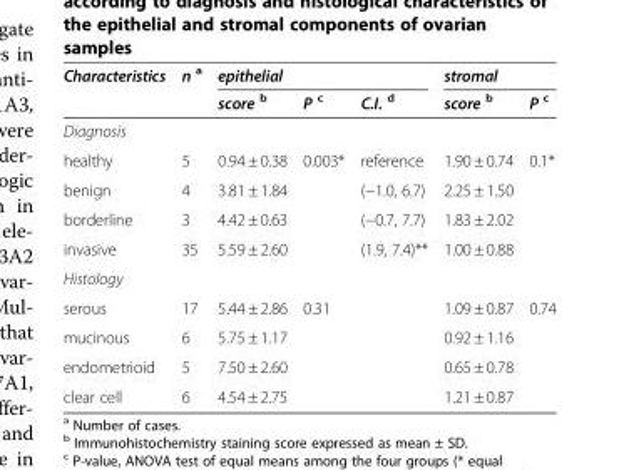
<table><thead><tr><td rowspan="2">Characteristics</td><td rowspan="2">n <sup>a</sup></td><td colspan="3">epithelial</td><td colspan="2">stromal</td></tr><tr><td>score <sup>b</sup></td><td>P <sup>c</sup></td><td>C.I. <sup>d</sup></td><td>score <sup>b</sup></td><td>P <sup>c</sup></td></tr></thead><tbody><tr><td colspan="7">Diagnosis</td></tr><tr><td>healthy</td><td>5</td><td>0.94 ± 0.38</td><td>0.003*</td><td>reference</td><td>1.90 ± 0.74</td><td>0.1*</td></tr><tr><td>benign</td><td>4</td><td>3.81 ± 1.84</td><td></td><td>(−1.0, 6.7)</td><td>2.25 ± 1.50</td><td></td></tr><tr><td>borderline</td><td>3</td><td>4.42 ± 0.63</td><td></td><td>(−0.7, 7.7)</td><td>1.83 ± 2.02</td><td></td></tr><tr><td>invasive</td><td>35</td><td>5.59 ± 2.60</td><td></td><td>(1.9, 7.4)**</td><td>1.00 ± 0.88</td><td></td></tr><tr><td colspan="7">Histology</td></tr><tr><td>serous</td><td>17</td><td>5.44 ± 2.86</td><td>0.31</td><td></td><td>1.09 ± 0.87</td><td>0.74</td></tr><tr><td>mucinous</td><td>6</td><td>5.75 ± 1.17</td><td></td><td></td><td>0.92 ± 1.16</td><td></td></tr><tr><td>endometrioid</td><td>5</td><td>7.50 ± 2.60</td><td></td><td></td><td>0.65 ± 0.78</td><td></td></tr><tr><td>clear cell</td><td>6</td><td>4.54 ± 2.75</td><td></td><td></td><td>1.21 ± 0.87</td><td></td></tr></tbody></table>